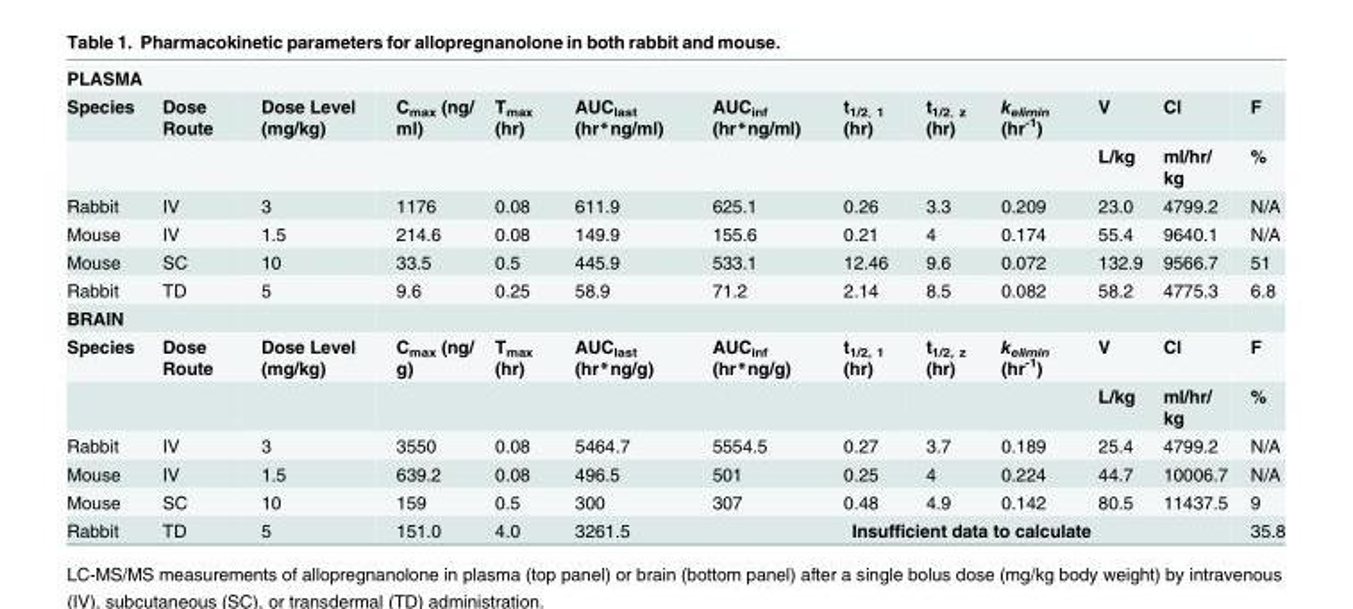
<table><tbody><tr><td colspan="13">PLASMA</td></tr><tr><td rowspan="2">Species</td><td>Dose Route</td><td>Dose Level (mg/kg)</td><td>C<sub>max</sub> (ng/ ml)</td><td>T<sub>max</sub> (hr)</td><td>AUC<sub>last</sub> (hr*ng/ml)</td><td>AUC<sub>inf</sub> (hr*ng/ml)</td><td>t<sub>1/2, 1</sub> (hr)</td><td>t<sub>1/2, z</sub> (hr)</td><td>k<sub>elimin</sub> (hr<sup>-1</sup>)</td><td>V</td><td>Cl</td><td>F</td></tr><tr><td></td><td></td><td></td><td></td><td></td><td></td><td></td><td></td><td></td><td>L/kg</td><td>ml/hr/ kg</td><td>%</td></tr><tr><td>Rabbit</td><td>IV</td><td>3</td><td>1176</td><td>0.08</td><td>611.9</td><td>625.1</td><td>0.26</td><td>3.3</td><td>0.209</td><td>23.0</td><td>4799.2</td><td>N/A</td></tr><tr><td>Mouse</td><td>IV</td><td>1.5</td><td>214.6</td><td>0.08</td><td>149.9</td><td>155.6</td><td>0.21</td><td>4</td><td>0.174</td><td>55.4</td><td>9640.1</td><td>N/A</td></tr><tr><td>Mouse</td><td>SC</td><td>10</td><td>33.5</td><td>0.5</td><td>445.9</td><td>533.1</td><td>12.46</td><td>9.6</td><td>0.072</td><td>132.9</td><td>9566.7</td><td>51</td></tr><tr><td>Rabbit</td><td>TD</td><td>5</td><td>9.6</td><td>0.25</td><td>58.9</td><td>71.2</td><td>2.14</td><td>8.5</td><td>0.082</td><td>58.2</td><td>4775.3</td><td>6.8</td></tr><tr><td colspan="13">BRAIN</td></tr><tr><td rowspan="2">Species</td><td>Dose Route</td><td>Dose Level (mg/kg)</td><td>C<sub>max</sub> (ng/ g)</td><td>T<sub>max</sub> (hr)</td><td>AUC<sub>last</sub> (hr*ng/g)</td><td>AUC<sub>inf</sub> (hr*ng/g)</td><td>t<sub>1/2, 1</sub> (hr)</td><td>t<sub>1/2, z</sub> (hr)</td><td>k<sub>elimin</sub> (hr<sup>-1</sup>)</td><td>V</td><td>Cl</td><td>F</td></tr><tr><td></td><td></td><td></td><td></td><td></td><td></td><td></td><td></td><td></td><td>L/kg</td><td>ml/hr/ kg</td><td>%</td></tr><tr><td>Rabbit</td><td>IV</td><td>3</td><td>3550</td><td>0.08</td><td>5464.7</td><td>5554.5</td><td>0.27</td><td>3.7</td><td>0.189</td><td>25.4</td><td>4799.2</td><td>N/A</td></tr><tr><td>Mouse</td><td>IV</td><td>1.5</td><td>639.2</td><td>0.08</td><td>496.5</td><td>501</td><td>0.25</td><td>4</td><td>0.224</td><td>44.7</td><td>10006.7</td><td>N/A</td></tr><tr><td>Mouse</td><td>SC</td><td>10</td><td>159</td><td>0.5</td><td>300</td><td>307</td><td>0.48</td><td>4.9</td><td>0.142</td><td>80.5</td><td>11437.5</td><td>9</td></tr><tr><td>Rabbit</td><td>TD</td><td>5</td><td>151.0</td><td>4.0</td><td>3261.5</td><td colspan="6">Insufficient data to calculate</td><td>35.8</td></tr></tbody></table>